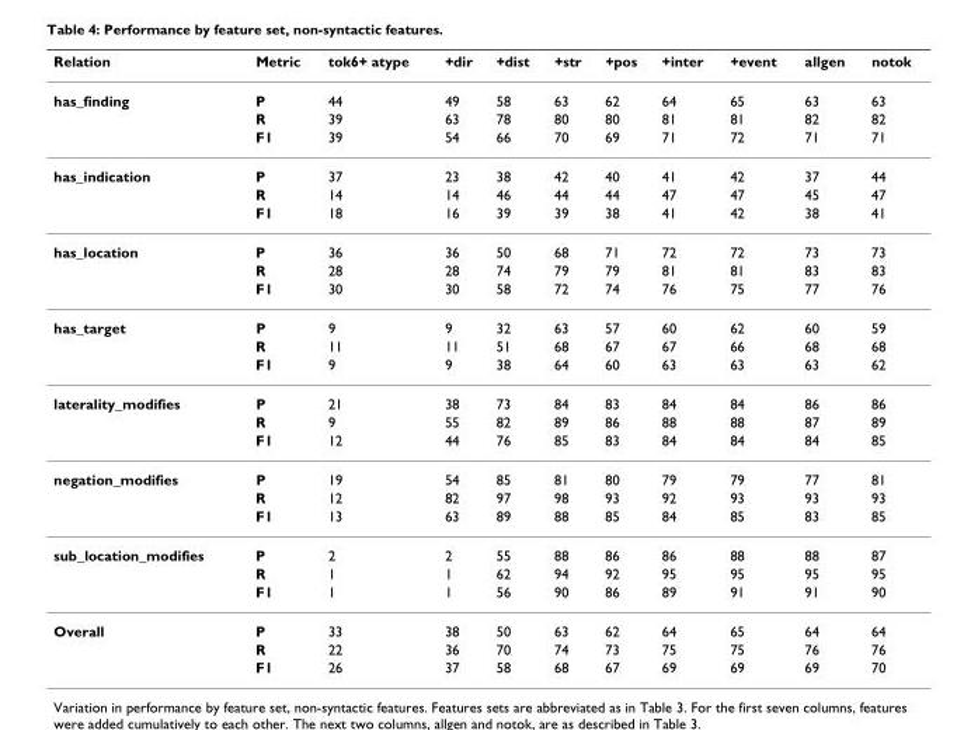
<table><thead><tr><td>Relation</td><td>Metric</td><td>tok6+ atype</td><td>+dir</td><td>+dist</td><td>+str</td><td>+pos</td><td>+inter</td><td>+event</td><td>allgen</td><td>notok</td></tr></thead><tbody><tr><td rowspan="3">has_finding</td><td>P</td><td>44</td><td>49</td><td>58</td><td>63</td><td>62</td><td>64</td><td>65</td><td>63</td><td>63</td></tr><tr><td>R</td><td>39</td><td>63</td><td>78</td><td>80</td><td>80</td><td>81</td><td>81</td><td>82</td><td>82</td></tr><tr><td>F1</td><td>39</td><td>54</td><td>66</td><td>70</td><td>69</td><td>71</td><td>72</td><td>71</td><td>71</td></tr><tr><td rowspan="3">has_indication</td><td>P</td><td>37</td><td>23</td><td>38</td><td>42</td><td>40</td><td>41</td><td>42</td><td>37</td><td>44</td></tr><tr><td>R</td><td>14</td><td>14</td><td>46</td><td>44</td><td>44</td><td>47</td><td>47</td><td>45</td><td>47</td></tr><tr><td>F1</td><td>18</td><td>16</td><td>39</td><td>39</td><td>38</td><td>41</td><td>42</td><td>38</td><td>41</td></tr><tr><td rowspan="3">has_location</td><td>P</td><td>36</td><td>36</td><td>50</td><td>68</td><td>71</td><td>72</td><td>72</td><td>73</td><td>73</td></tr><tr><td>R</td><td>28</td><td>28</td><td>74</td><td>79</td><td>79</td><td>81</td><td>81</td><td>83</td><td>83</td></tr><tr><td>F1</td><td>30</td><td>30</td><td>58</td><td>72</td><td>74</td><td>76</td><td>75</td><td>77</td><td>76</td></tr><tr><td rowspan="3">has_target</td><td>P</td><td>9</td><td>9</td><td>32</td><td>63</td><td>57</td><td>60</td><td>62</td><td>60</td><td>59</td></tr><tr><td>R</td><td>11</td><td>11</td><td>51</td><td>68</td><td>67</td><td>67</td><td>66</td><td>68</td><td>68</td></tr><tr><td>F1</td><td>9</td><td>9</td><td>38</td><td>64</td><td>60</td><td>63</td><td>63</td><td>63</td><td>62</td></tr><tr><td rowspan="3">laterality_modifies</td><td>P</td><td>21</td><td>38</td><td>73</td><td>84</td><td>83</td><td>84</td><td>84</td><td>86</td><td>86</td></tr><tr><td>R</td><td>9</td><td>55</td><td>82</td><td>89</td><td>86</td><td>88</td><td>88</td><td>87</td><td>89</td></tr><tr><td>F1</td><td>12</td><td>44</td><td>76</td><td>85</td><td>83</td><td>84</td><td>84</td><td>84</td><td>85</td></tr><tr><td rowspan="3">negation_modifies</td><td>P</td><td>19</td><td>54</td><td>85</td><td>81</td><td>80</td><td>79</td><td>79</td><td>77</td><td>81</td></tr><tr><td>R</td><td>12</td><td>82</td><td>97</td><td>98</td><td>93</td><td>92</td><td>93</td><td>93</td><td>93</td></tr><tr><td>F1</td><td>13</td><td>63</td><td>89</td><td>88</td><td>85</td><td>84</td><td>85</td><td>83</td><td>85</td></tr><tr><td rowspan="3">sub_location_modifies</td><td>P</td><td>2</td><td>2</td><td>55</td><td>88</td><td>86</td><td>86</td><td>88</td><td>88</td><td>87</td></tr><tr><td>R</td><td>1</td><td>1</td><td>62</td><td>94</td><td>92</td><td>95</td><td>95</td><td>95</td><td>95</td></tr><tr><td>F1</td><td>1</td><td>1</td><td>56</td><td>90</td><td>86</td><td>89</td><td>91</td><td>91</td><td>90</td></tr><tr><td rowspan="3">Overall</td><td>P</td><td>33</td><td>38</td><td>50</td><td>63</td><td>62</td><td>64</td><td>65</td><td>64</td><td>64</td></tr><tr><td>R</td><td>22</td><td>36</td><td>70</td><td>74</td><td>73</td><td>75</td><td>75</td><td>76</td><td>76</td></tr><tr><td>F1</td><td>26</td><td>37</td><td>58</td><td>68</td><td>67</td><td>69</td><td>69</td><td>69</td><td>70</td></tr></tbody></table>